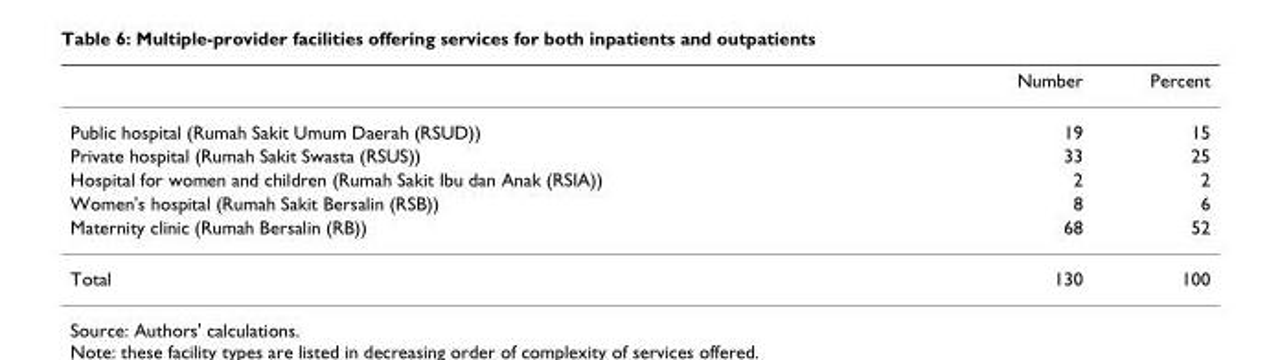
<table><thead><tr><td></td><td>Number</td><td>Percent</td></tr></thead><tbody><tr><td>Public hospital (Rumah Sakit Umum Daerah (RSUD))</td><td>19</td><td>15</td></tr><tr><td>Private hospital (Rumah Sakit Swasta (RSUS))</td><td>33</td><td>25</td></tr><tr><td>Hospital for women and children (Rumah Sakit Ibu dan Anak (RSIA))</td><td>2</td><td>2</td></tr><tr><td>Women&#x27;s hospital (Rumah Sakit Bersalin (RSB))</td><td>8</td><td>6</td></tr><tr><td>Maternity clinic (Rumah Bersalin (RB))</td><td>68</td><td>52</td></tr><tr><td>Total</td><td>130</td><td>100</td></tr></tbody></table>